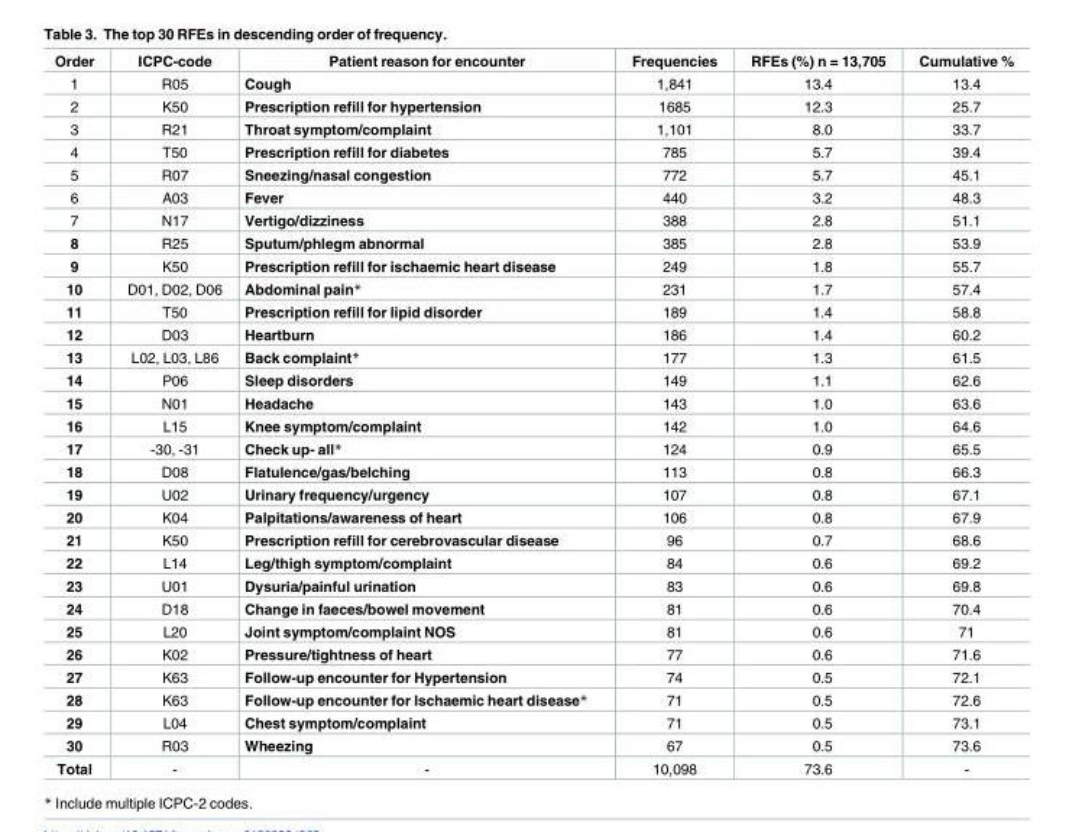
<table><thead><tr><td>Order</td><td>ICPC-code</td><td>Patient reason for encounter</td><td>Frequencies</td><td>RFEs (%) n = 13,705</td><td>Cumulative %</td></tr></thead><tbody><tr><td>1</td><td>R05</td><td>Cough</td><td>1,841</td><td>13.4</td><td>13.4</td></tr><tr><td>2</td><td>K50</td><td>Prescription refill for hypertension</td><td>1685</td><td>12.3</td><td>25.7</td></tr><tr><td>3</td><td>R21</td><td>Throat symptom/complaint</td><td>1,101</td><td>8.0</td><td>33.7</td></tr><tr><td>4</td><td>T50</td><td>Prescription refill for diabetes</td><td>785</td><td>5.7</td><td>39.4</td></tr><tr><td>5</td><td>R07</td><td>Sneezing/nasal congestion</td><td>772</td><td>5.7</td><td>45.1</td></tr><tr><td>6</td><td>A03</td><td>Fever</td><td>440</td><td>3.2</td><td>48.3</td></tr><tr><td>7</td><td>N17</td><td>Vertigo/dizziness</td><td>388</td><td>2.8</td><td>51.1</td></tr><tr><td>8</td><td>R25</td><td>Sputum/phlegm abnormal</td><td>385</td><td>2.8</td><td>53.9</td></tr><tr><td>9</td><td>K50</td><td>Prescription refill for ischaemic heart disease</td><td>249</td><td>1.8</td><td>55.7</td></tr><tr><td>10</td><td>D01, D02, D06</td><td>Abdominal pain*</td><td>231</td><td>1.7</td><td>57.4</td></tr><tr><td>11</td><td>T50</td><td>Prescription refill for lipid disorder</td><td>189</td><td>1.4</td><td>58.8</td></tr><tr><td>12</td><td>D03</td><td>Heartburn</td><td>186</td><td>1.4</td><td>60.2</td></tr><tr><td>13</td><td>L02, L03, L86</td><td>Back complaint*</td><td>177</td><td>1.3</td><td>61.5</td></tr><tr><td>14</td><td>P06</td><td>Sleep disorders</td><td>149</td><td>1.1</td><td>62.6</td></tr><tr><td>15</td><td>N01</td><td>Headache</td><td>143</td><td>1.0</td><td>63.6</td></tr><tr><td>16</td><td>L15</td><td>Knee symptom/complaint</td><td>142</td><td>1.0</td><td>64.6</td></tr><tr><td>17</td><td>-30, -31</td><td>Check up- all*</td><td>124</td><td>0.9</td><td>65.5</td></tr><tr><td>18</td><td>D08</td><td>Flatulence/gas/belching</td><td>113</td><td>0.8</td><td>66.3</td></tr><tr><td>19</td><td>U02</td><td>Urinary frequency/urgency</td><td>107</td><td>0.8</td><td>67.1</td></tr><tr><td>20</td><td>K04</td><td>Palpitations/awareness of heart</td><td>106</td><td>0.8</td><td>67.9</td></tr><tr><td>21</td><td>K50</td><td>Prescription refill for cerebrovascular disease</td><td>96</td><td>0.7</td><td>68.6</td></tr><tr><td>22</td><td>L14</td><td>Leg/thigh symptom/complaint</td><td>84</td><td>0.6</td><td>69.2</td></tr><tr><td>23</td><td>U01</td><td>Dysuria/painful urination</td><td>83</td><td>0.6</td><td>69.8</td></tr><tr><td>24</td><td>D18</td><td>Change in faeces/bowel movement</td><td>81</td><td>0.6</td><td>70.4</td></tr><tr><td>25</td><td>L20</td><td>Joint symptom/complaint NOS</td><td>81</td><td>0.6</td><td>71</td></tr><tr><td>26</td><td>K02</td><td>Pressure/tightness of heart</td><td>77</td><td>0.6</td><td>71.6</td></tr><tr><td>27</td><td>K63</td><td>Follow-up encounter for Hypertension</td><td>74</td><td>0.5</td><td>72.1</td></tr><tr><td>28</td><td>K63</td><td>Follow-up encounter for Ischaemic heart disease*</td><td>71</td><td>0.5</td><td>72.6</td></tr><tr><td>29</td><td>L04</td><td>Chest symptom/complaint</td><td>71</td><td>0.5</td><td>73.1</td></tr><tr><td>30</td><td>R03</td><td>Wheezing</td><td>67</td><td>0.5</td><td>73.6</td></tr><tr><td>Total</td><td>-</td><td>-</td><td>10,098</td><td>73.6</td><td>-</td></tr></tbody></table>